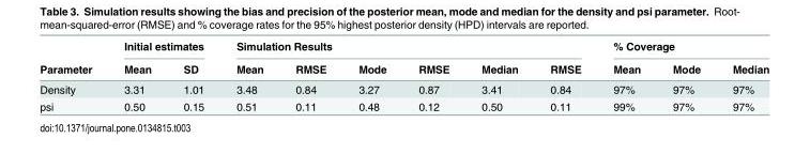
<table><thead><tr><td rowspan="2">Parameter</td><td colspan="2">Initial estimates</td><td colspan="6">Simulation Results</td><td colspan="3">% Coverage</td></tr><tr><td>Mean</td><td>SD</td><td>Mean</td><td>RMSE</td><td>Mode</td><td>RMSE</td><td>Median</td><td>RMSE</td><td>Mean</td><td>Mode</td><td>Median</td></tr></thead><tbody><tr><td>Density</td><td>3.31</td><td>1.01</td><td>3.48</td><td>0.84</td><td>3.27</td><td>0.87</td><td>3.41</td><td>0.84</td><td>97%</td><td>97%</td><td>97%</td></tr><tr><td>psi</td><td>0.50</td><td>0.15</td><td>0.51</td><td>0.11</td><td>0.48</td><td>0.12</td><td>0.50</td><td>0.11</td><td>99%</td><td>97%</td><td>97%</td></tr></tbody></table>